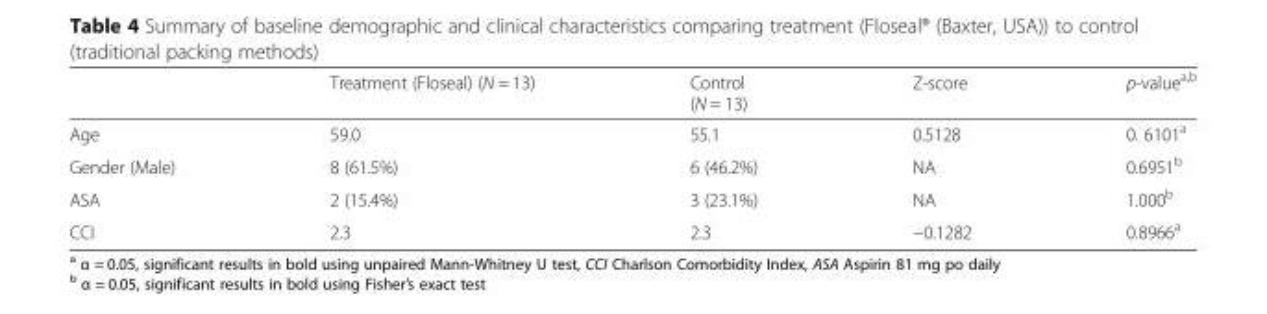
<table><thead><tr><td></td><td>Treatment (Floseal) (N = 13)</td><td>Control (N = 13)</td><td>Z-score</td><td>p-value<sup>a,b</sup></td></tr></thead><tbody><tr><td>Age</td><td>59.0</td><td>55.1</td><td>0.5128</td><td>0. 6101<sup>a</sup></td></tr><tr><td>Gender (Male)</td><td>8 (61.5%)</td><td>6 (46.2%)</td><td>NA</td><td>0.6951<sup>b</sup></td></tr><tr><td>ASA</td><td>2 (15.4%)</td><td>3 (23.1%)</td><td>NA</td><td>1.000<sup>b</sup></td></tr><tr><td>CCI</td><td>2.3</td><td>2.3</td><td>−0.1282</td><td>0.8966<sup>a</sup></td></tr></tbody></table>